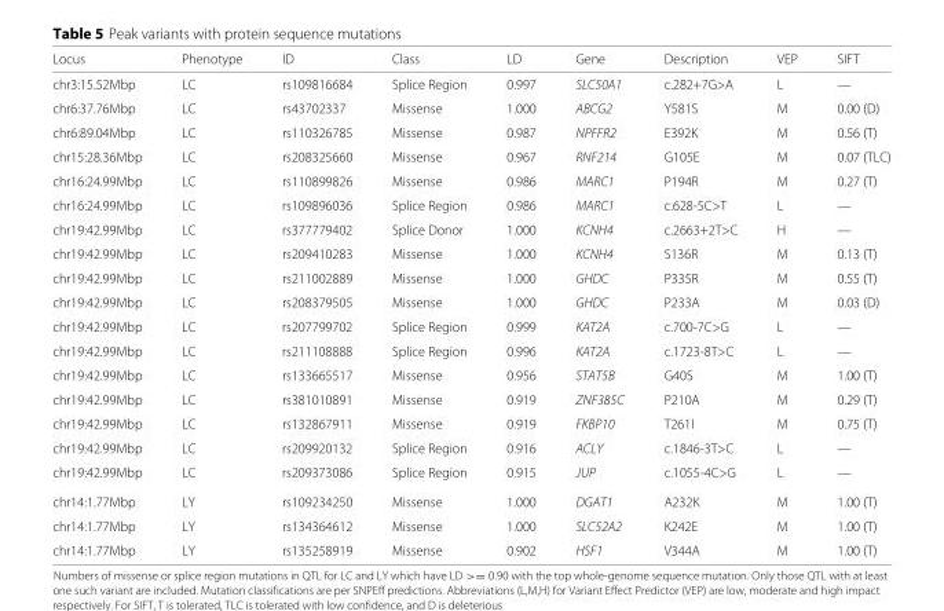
<table><thead><tr><td>Locus</td><td>Phenotype</td><td>ID</td><td>Class</td><td>LD</td><td>Gene</td><td>Description</td><td>VEP</td><td>SIFT</td></tr></thead><tbody><tr><td>chr3:15.52Mbp</td><td>LC</td><td>rs109816684</td><td>Splice Region</td><td>0.997</td><td>SLC50A1</td><td>c.282+7G&gt;A</td><td>L</td><td>—</td></tr><tr><td>chr6:37.76Mbp</td><td>LC</td><td>rs43702337</td><td>Missense</td><td>1.000</td><td>ABCG2</td><td>Y581S</td><td>M</td><td>0.00 (D)</td></tr><tr><td>chr6:89.04Mbp</td><td>LC</td><td>rs110326785</td><td>Missense</td><td>0.987</td><td>NPFFR2</td><td>E392K</td><td>M</td><td>0.56 (T)</td></tr><tr><td>chr15:28.36Mbp</td><td>LC</td><td>rs208325660</td><td>Missense</td><td>0.967</td><td>RNF214</td><td>G105E</td><td>M</td><td>0.07 (TLC)</td></tr><tr><td>chr16:24.99Mbp</td><td>LC</td><td>rs110899826</td><td>Missense</td><td>0.986</td><td>MARC1</td><td>P194R</td><td>M</td><td>0.27 (T)</td></tr><tr><td>chr16:24.99Mbp</td><td>LC</td><td>rs109896036</td><td>Splice Region</td><td>0.986</td><td>MARC1</td><td>c.628-5C&gt;T</td><td>L</td><td>—</td></tr><tr><td>chr19:42.99Mbp</td><td>LC</td><td>rs377779402</td><td>Splice Donor</td><td>1.000</td><td>KCNH4</td><td>c.2663+2T&gt;C</td><td>H</td><td>—</td></tr><tr><td>chr19:42.99Mbp</td><td>LC</td><td>rs209410283</td><td>Missense</td><td>1.000</td><td>KCNH4</td><td>S136R</td><td>M</td><td>0.13 (T)</td></tr><tr><td>chr19:42.99Mbp</td><td>LC</td><td>rs211002889</td><td>Missense</td><td>1.000</td><td>GHDC</td><td>P335R</td><td>M</td><td>0.55 (T)</td></tr><tr><td>chr19:42.99Mbp</td><td>LC</td><td>rs208379505</td><td>Missense</td><td>1.000</td><td>GHDC</td><td>P233A</td><td>M</td><td>0.03 (D)</td></tr><tr><td>chr19:42.99Mbp</td><td>LC</td><td>rs207799702</td><td>Splice Region</td><td>0.999</td><td>KAT2A</td><td>c.700-7C&gt;G</td><td>L</td><td>—</td></tr><tr><td>chr19:42.99Mbp</td><td>LC</td><td>rs211108888</td><td>Splice Region</td><td>0.996</td><td>KAT2A</td><td>c.1723-8T&gt;C</td><td>L</td><td>—</td></tr><tr><td>chr19:42.99Mbp</td><td>LC</td><td>rs133665517</td><td>Missense</td><td>0.956</td><td>STAT5B</td><td>G40S</td><td>M</td><td>1.00 (T)</td></tr><tr><td>chr19:42.99Mbp</td><td>LC</td><td>rs381010891</td><td>Missense</td><td>0.919</td><td>ZNF385C</td><td>P210A</td><td>M</td><td>0.29 (T)</td></tr><tr><td>chr19:42.99Mbp</td><td>LC</td><td>rs132867911</td><td>Missense</td><td>0.919</td><td>FKBP10</td><td>T261I</td><td>M</td><td>0.75 (T)</td></tr><tr><td>chr19:42.99Mbp</td><td>LC</td><td>rs209920132</td><td>Splice Region</td><td>0.916</td><td>ACLY</td><td>c.1846-3T&gt;C</td><td>L</td><td>—</td></tr><tr><td>chr19:42.99Mbp</td><td>LC</td><td>rs209373086</td><td>Splice Region</td><td>0.915</td><td>JUP</td><td>c.1055-4C&gt;G</td><td>L</td><td>—</td></tr><tr><td>chr14:1.77Mbp</td><td>LY</td><td>rs109234250</td><td>Missense</td><td>1.000</td><td>DGAT1</td><td>A232K</td><td>M</td><td>1.00 (T)</td></tr><tr><td>chr14:1.77Mbp</td><td>LY</td><td>rs134364612</td><td>Missense</td><td>1.000</td><td>SLC52A2</td><td>K242E</td><td>M</td><td>1.00 (T)</td></tr><tr><td>chr14:1.77Mbp</td><td>LY</td><td>rs135258919</td><td>Missense</td><td>0.902</td><td>HSF1</td><td>V344A</td><td>M</td><td>1.00 (T)</td></tr></tbody></table>